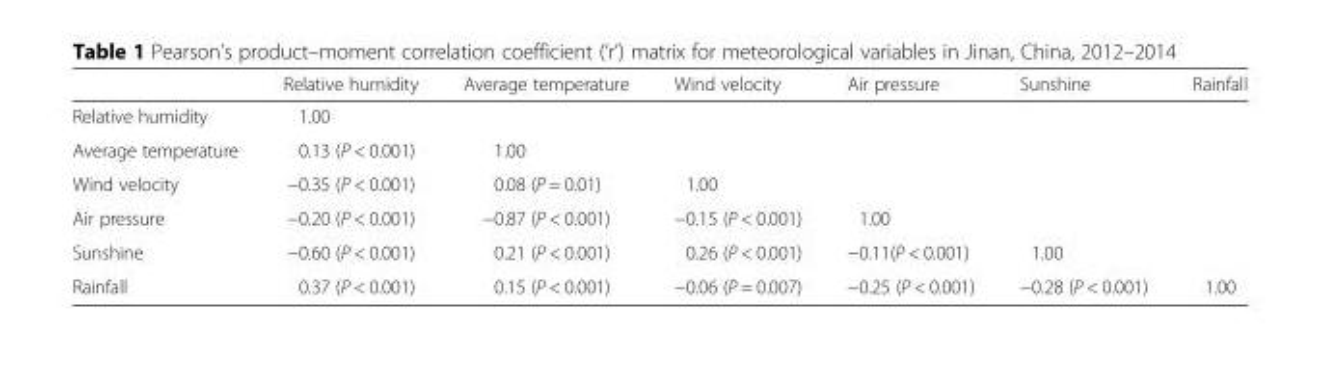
<table><thead><tr><td></td><td>Relative humidity</td><td>Average temperature</td><td>Wind velocity</td><td>Air pressure</td><td>Sunshine</td><td>Rainfall</td></tr></thead><tbody><tr><td>Relative humidity</td><td>1.00</td><td></td><td></td><td></td><td></td><td></td></tr><tr><td>Average temperature</td><td>0.13 (P &lt; 0.001)</td><td>1.00</td><td></td><td></td><td></td><td></td></tr><tr><td>Wind velocity</td><td>−0.35 (P &lt; 0.001)</td><td>0.08 (P = 0.01)</td><td>1.00</td><td></td><td></td><td></td></tr><tr><td>Air pressure</td><td>−0.20 (P &lt; 0.001)</td><td>−0.87 (P &lt; 0.001)</td><td>−0.15 (P &lt; 0.001)</td><td>1.00</td><td></td><td></td></tr><tr><td>Sunshine</td><td>−0.60 (P &lt; 0.001)</td><td>0.21 (P &lt; 0.001)</td><td>0.26 (P &lt; 0.001)</td><td>−0.11(P &lt; 0.001)</td><td>1.00</td><td></td></tr><tr><td>Rainfall</td><td>0.37 (P &lt; 0.001)</td><td>0.15 (P &lt; 0.001)</td><td>−0.06 (P = 0.007)</td><td>−0.25 (P &lt; 0.001)</td><td>−0.28 (P &lt; 0.001)</td><td>1.00</td></tr></tbody></table>